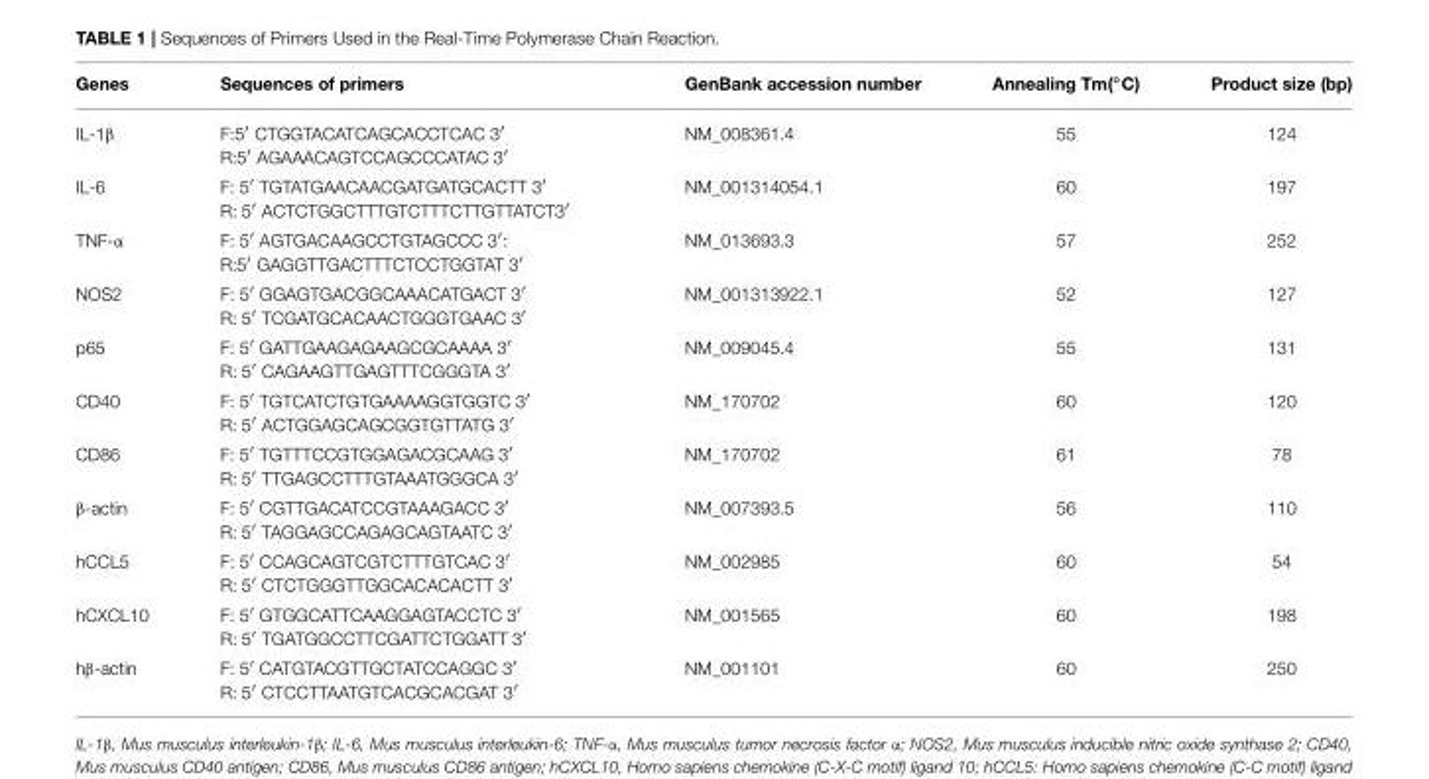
<table><thead><tr><td>Genes</td><td>Sequences of primers</td><td>GenBank accession number</td><td>Annealing Tm(◦C)</td><td>Product size (bp)</td></tr></thead><tbody><tr><td>IL-1β</td><td>F:5′ CTGGTACATCAGCACCTCAC 3′ R:5′ AGAAACAGTCCAGCCCATAC 3′</td><td>NM_008361.4</td><td>55</td><td>124</td></tr><tr><td>IL-6</td><td>F: 5′ TGTATGAACAACGATGATGCACTT 3′ R: 5′ ACTCTGGCTTTGTCTTTCTTGTTATCT3′</td><td>NM_001314054.1</td><td>60</td><td>197</td></tr><tr><td>TNF-α</td><td>F: 5′ AGTGACAAGCCTGTAGCCC 3′: R:5′ GAGGTTGACTTTCTCCTGGTAT 3′</td><td>NM_013693.3</td><td>57</td><td>252</td></tr><tr><td>NOS2</td><td>F: 5′ GGAGTGACGGCAAACATGACT 3′ R: 5′ TCGATGCACAACTGGGTGAAC 3′</td><td>NM_001313922.1</td><td>52</td><td>127</td></tr><tr><td>p65</td><td>F: 5′ GATTGAAGAGAAGCGCAAAA 3′ R: 5′ CAGAAGTTGAGTTTCGGGTA 3′</td><td>NM_009045.4</td><td>55</td><td>131</td></tr><tr><td>CD40</td><td>F: 5′ TGTCATCTGTGAAAAGGTGGTC 3′ R: 5′ ACTGGAGCAGCGGTGTTATG 3′</td><td>NM_170702</td><td>60</td><td>120</td></tr><tr><td>CD86</td><td>F: 5′ TGTTTCCGTGGAGACGCAAG 3′ R: 5′ TTGAGCCTTTGTAAATGGGCA 3′</td><td>NM_170702</td><td>61</td><td>78</td></tr><tr><td>β-actin</td><td>F: 5′ CGTTGACATCCGTAAAGACC 3′ R: 5′ TAGGAGCCAGAGCAGTAATC 3′</td><td>NM_007393.5</td><td>56</td><td>110</td></tr><tr><td>hCCL5</td><td>F: 5′ CCAGCAGTCGTCTTTGTCAC 3′ R: 5′ CTCTGGGTTGGCACACACTT 3′</td><td>NM_002985</td><td>60</td><td>54</td></tr><tr><td>hCXCL10</td><td>F: 5′ GTGGCATTCAAGGAGTACCTC 3′ R: 5′ TGATGGCCTTCGATTCTGGATT 3′</td><td>NM_001565</td><td>60</td><td>198</td></tr><tr><td>hβ-actin</td><td>F: 5′ CATGTACGTTGCTATCCAGGC 3′ R: 5′ CTCCTTAATGTCACGCACGAT 3′</td><td>NM_001101</td><td>60</td><td>250</td></tr></tbody></table>